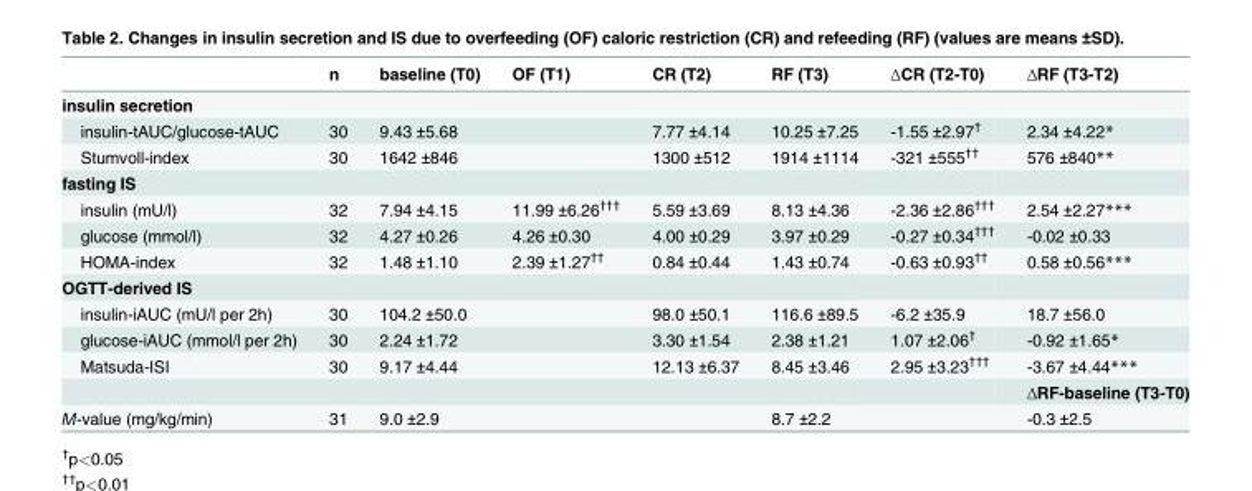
<table><thead><tr><td></td><td>n</td><td>baseline (T0)</td><td>OF (T1)</td><td>CR (T2)</td><td>RF (T3)</td><td>ΔCR (T2-T0)</td><td>ΔRF (T3-T2)</td></tr></thead><tbody><tr><td colspan="8">insulin secretion</td></tr><tr><td>insulin-tAUC/glucose-tAUC</td><td>30</td><td>9.43 ±5.68</td><td></td><td>7.77 ±4.14</td><td>10.25 ±7.25</td><td>-1.55 ±2.97<sup>†</sup></td><td>2.34 ±4.22*</td></tr><tr><td>Stumvoll-index</td><td>30</td><td>1642 ±846</td><td></td><td>1300 ±512</td><td>1914 ±1114</td><td>-321 ±555<sup>††</sup></td><td>576 ±840**</td></tr><tr><td colspan="8">fasting IS</td></tr><tr><td>insulin (mU/l)</td><td>32</td><td>7.94 ±4.15</td><td>11.99 ±6.26<sup>†††</sup></td><td>5.59 ±3.69</td><td>8.13 ±4.36</td><td>-2.36 ±2.86<sup>†††</sup></td><td>2.54 ±2.27***</td></tr><tr><td>glucose (mmol/l)</td><td>32</td><td>4.27 ±0.26</td><td>4.26 ±0.30</td><td>4.00 ±0.29</td><td>3.97 ±0.29</td><td>-0.27 ±0.34<sup>†††</sup></td><td>-0.02 ±0.33</td></tr><tr><td>HOMA-index</td><td>32</td><td>1.48 ±1.10</td><td>2.39 ±1.27<sup>††</sup></td><td>0.84 ±0.44</td><td>1.43 ±0.74</td><td>-0.63 ±0.93<sup>††</sup></td><td>0.58 ±0.56***</td></tr><tr><td colspan="8">OGTT-derived IS</td></tr><tr><td>insulin-iAUC (mU/l per 2h)</td><td>30</td><td>104.2 ±50.0</td><td></td><td>98.0 ±50.1</td><td>116.6 ±89.5</td><td>-6.2 ±35.9</td><td>18.7 ±56.0</td></tr><tr><td>glucose-iAUC (mmol/l per 2h)</td><td>30</td><td>2.24 ±1.72</td><td></td><td>3.30 ±1.54</td><td>2.38 ±1.21</td><td>1.07 ±2.06<sup>†</sup></td><td>-0.92 ±1.65*</td></tr><tr><td rowspan="2">Matsuda-ISI</td><td>30</td><td>9.17 ±4.44</td><td></td><td>12.13 ±6.37</td><td>8.45 ±3.46</td><td>2.95 ±3.23<sup>†††</sup></td><td>-3.67 ±4.44***</td></tr><tr><td></td><td></td><td></td><td></td><td></td><td></td><td>ΔRF-baseline (T3-T0)</td></tr><tr><td>M-value (mg/kg/min)</td><td>31</td><td>9.0 ±2.9</td><td></td><td></td><td>8.7 ±2.2</td><td></td><td>-0.3 ±2.5</td></tr></tbody></table>